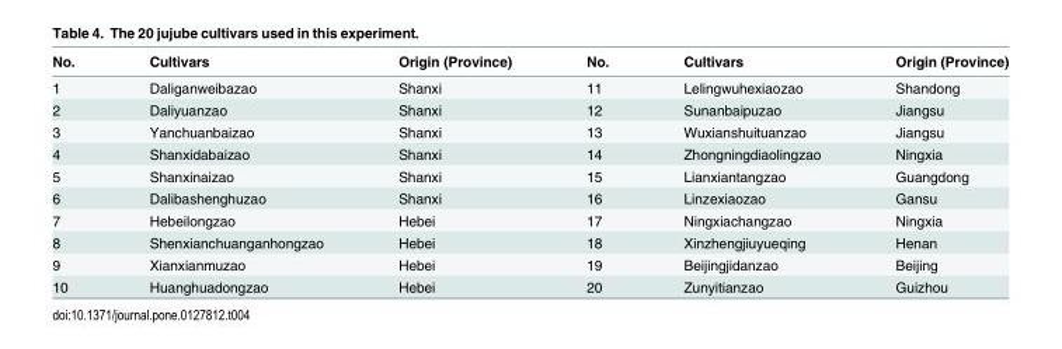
<table><thead><tr><td>No.</td><td>Cultivars</td><td>Origin (Province)</td><td>No.</td><td>Cultivars</td><td>Origin (Province)</td></tr></thead><tbody><tr><td>1</td><td>Daliganweibazao</td><td>Shanxi</td><td>11</td><td>Lelingwuhexiaozao</td><td>Shandong</td></tr><tr><td>2</td><td>Daliyuanzao</td><td>Shanxi</td><td>12</td><td>Sunanbaipuzao</td><td>Jiangsu</td></tr><tr><td>3</td><td>Yanchuanbaizao</td><td>Shanxi</td><td>13</td><td>Wuxianshuituanzao</td><td>Jiangsu</td></tr><tr><td>4</td><td>Shanxidabaizao</td><td>Shanxi</td><td>14</td><td>Zhongningdiaolingzao</td><td>Ningxia</td></tr><tr><td>5</td><td>Shanxinaizao</td><td>Shanxi</td><td>15</td><td>Lianxiantangzao</td><td>Guangdong</td></tr><tr><td>6</td><td>Dalibashenghuzao</td><td>Shanxi</td><td>16</td><td>Linzexiaozao</td><td>Gansu</td></tr><tr><td>7</td><td>Hebeilongzao</td><td>Hebei</td><td>17</td><td>Ningxiachangzao</td><td>Ningxia</td></tr><tr><td>8</td><td>Shenxianchuanganhongzao</td><td>Hebei</td><td>18</td><td>Xinzhengjiuyueqing</td><td>Henan</td></tr><tr><td>9</td><td>Xianxianmuzao</td><td>Hebei</td><td>19</td><td>Beijingjidanzao</td><td>Beijing</td></tr><tr><td>10</td><td>Huanghuadongzao</td><td>Hebei</td><td>20</td><td>Zunyitianzao</td><td>Guizhou</td></tr></tbody></table>